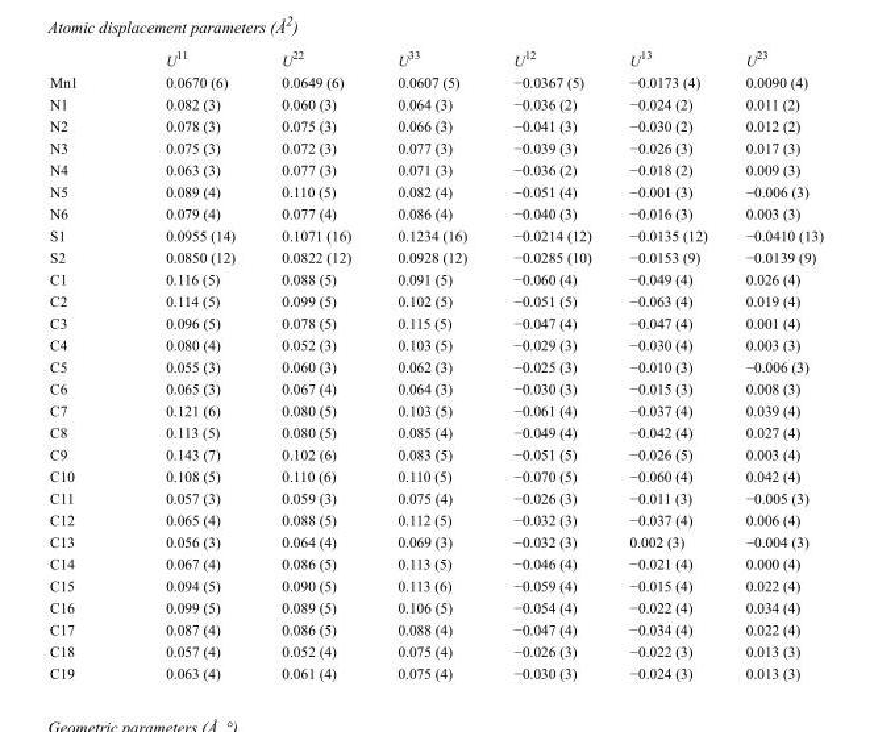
<table><thead><tr><td></td><td>U<sup>11</sup></td><td>U<sup>22</sup></td><td>U<sup>33</sup></td><td>U<sup>12</sup></td><td>U<sup>13</sup></td><td>U<sup>23</sup></td></tr></thead><tbody><tr><td>Mn1</td><td>0.0670 (6)</td><td>0.0649 (6)</td><td>0.0607 (5)</td><td>−0.0367 (5)</td><td>−0.0173 (4)</td><td>0.0090 (4)</td></tr><tr><td>N1</td><td>0.082 (3)</td><td>0.060 (3)</td><td>0.064 (3)</td><td>−0.036 (2)</td><td>−0.024 (2)</td><td>0.011 (2)</td></tr><tr><td>N2</td><td>0.078 (3)</td><td>0.075 (3)</td><td>0.066 (3)</td><td>−0.041 (3)</td><td>−0.030 (2)</td><td>0.012 (2)</td></tr><tr><td>N3</td><td>0.075 (3)</td><td>0.072 (3)</td><td>0.077 (3)</td><td>−0.039 (3)</td><td>−0.026 (3)</td><td>0.017 (3)</td></tr><tr><td>N4</td><td>0.063 (3)</td><td>0.077 (3)</td><td>0.071 (3)</td><td>−0.036 (2)</td><td>−0.018 (2)</td><td>0.009 (3)</td></tr><tr><td>N5</td><td>0.089 (4)</td><td>0.110 (5)</td><td>0.082 (4)</td><td>−0.051 (4)</td><td>−0.001 (3)</td><td>−0.006 (3)</td></tr><tr><td>N6</td><td>0.079 (4)</td><td>0.077 (4)</td><td>0.086 (4)</td><td>−0.040 (3)</td><td>−0.016 (3)</td><td>0.003 (3)</td></tr><tr><td>S1</td><td>0.0955 (14)</td><td>0.1071 (16)</td><td>0.1234 (16)</td><td>−0.0214 (12)</td><td>−0.0135 (12)</td><td>−0.0410 (13)</td></tr><tr><td>S2</td><td>0.0850 (12)</td><td>0.0822 (12)</td><td>0.0928 (12)</td><td>−0.0285 (10)</td><td>−0.0153 (9)</td><td>−0.0139 (9)</td></tr><tr><td>C1</td><td>0.116 (5)</td><td>0.088 (5)</td><td>0.091 (5)</td><td>−0.060 (4)</td><td>−0.049 (4)</td><td>0.026 (4)</td></tr><tr><td>C2</td><td>0.114 (5)</td><td>0.099 (5)</td><td>0.102 (5)</td><td>−0.051 (5)</td><td>−0.063 (4)</td><td>0.019 (4)</td></tr><tr><td>C3</td><td>0.096 (5)</td><td>0.078 (5)</td><td>0.115 (5)</td><td>−0.047 (4)</td><td>−0.047 (4)</td><td>0.001 (4)</td></tr><tr><td>C4</td><td>0.080 (4)</td><td>0.052 (3)</td><td>0.103 (5)</td><td>−0.029 (3)</td><td>−0.030 (4)</td><td>0.003 (3)</td></tr><tr><td>C5</td><td>0.055 (3)</td><td>0.060 (3)</td><td>0.062 (3)</td><td>−0.025 (3)</td><td>−0.010 (3)</td><td>−0.006 (3)</td></tr><tr><td>C6</td><td>0.065 (3)</td><td>0.067 (4)</td><td>0.064 (3)</td><td>−0.030 (3)</td><td>−0.015 (3)</td><td>0.008 (3)</td></tr><tr><td>C7</td><td>0.121 (6)</td><td>0.080 (5)</td><td>0.103 (5)</td><td>−0.061 (4)</td><td>−0.037 (4)</td><td>0.039 (4)</td></tr><tr><td>C8</td><td>0.113 (5)</td><td>0.080 (5)</td><td>0.085 (4)</td><td>−0.049 (4)</td><td>−0.042 (4)</td><td>0.027 (4)</td></tr><tr><td>C9</td><td>0.143 (7)</td><td>0.102 (6)</td><td>0.083 (5)</td><td>−0.051 (5)</td><td>−0.026 (5)</td><td>0.003 (4)</td></tr><tr><td>C10</td><td>0.108 (5)</td><td>0.110 (6)</td><td>0.110 (5)</td><td>−0.070 (5)</td><td>−0.060 (4)</td><td>0.042 (4)</td></tr><tr><td>C11</td><td>0.057 (3)</td><td>0.059 (3)</td><td>0.075 (4)</td><td>−0.026 (3)</td><td>−0.011 (3)</td><td>−0.005 (3)</td></tr><tr><td>C12</td><td>0.065 (4)</td><td>0.088 (5)</td><td>0.112 (5)</td><td>−0.032 (3)</td><td>−0.037 (4)</td><td>0.006 (4)</td></tr><tr><td>C13</td><td>0.056 (3)</td><td>0.064 (4)</td><td>0.069 (3)</td><td>−0.032 (3)</td><td>0.002 (3)</td><td>−0.004 (3)</td></tr><tr><td>C14</td><td>0.067 (4)</td><td>0.086 (5)</td><td>0.113 (5)</td><td>−0.046 (4)</td><td>−0.021 (4)</td><td>0.000 (4)</td></tr><tr><td>C15</td><td>0.094 (5)</td><td>0.090 (5)</td><td>0.113 (6)</td><td>−0.059 (4)</td><td>−0.015 (4)</td><td>0.022 (4)</td></tr><tr><td>C16</td><td>0.099 (5)</td><td>0.089 (5)</td><td>0.106 (5)</td><td>−0.054 (4)</td><td>−0.022 (4)</td><td>0.034 (4)</td></tr><tr><td>C17</td><td>0.087 (4)</td><td>0.086 (5)</td><td>0.088 (4)</td><td>−0.047 (4)</td><td>−0.034 (4)</td><td>0.022 (4)</td></tr><tr><td>C18</td><td>0.057 (4)</td><td>0.052 (4)</td><td>0.075 (4)</td><td>−0.026 (3)</td><td>−0.022 (3)</td><td>0.013 (3)</td></tr><tr><td>C19</td><td>0.063 (4)</td><td>0.061 (4)</td><td>0.075 (4)</td><td>−0.030 (3)</td><td>−0.024 (3)</td><td>0.013 (3)</td></tr></tbody></table>